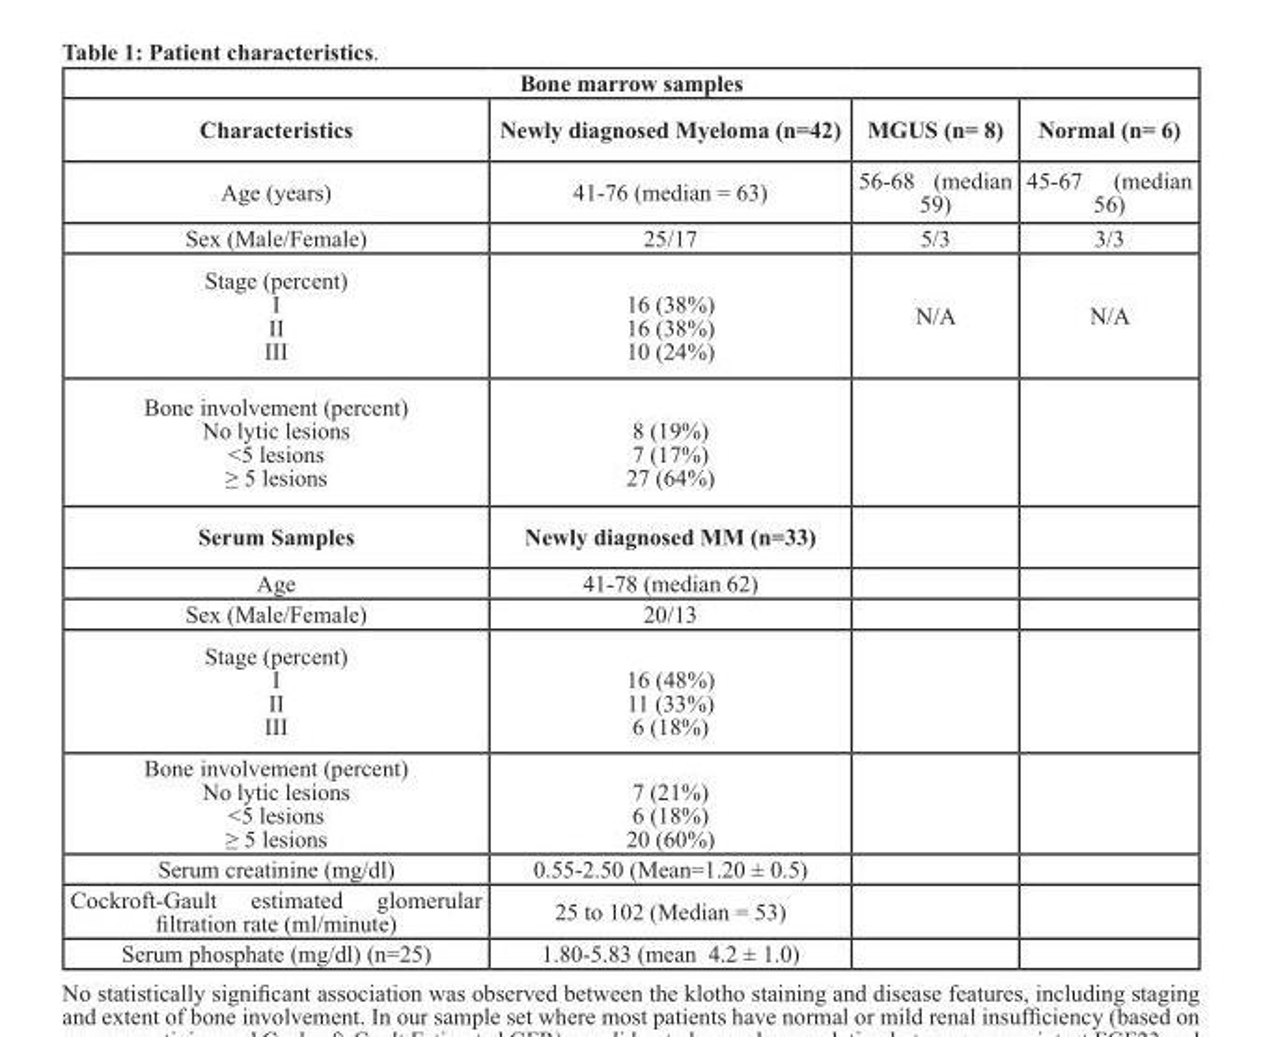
<table><thead><tr><td colspan="4">Bone marrow samples</td></tr><tr><td>Characteristics</td><td>Newly diagnosed Myeloma (n=42)</td><td>MGUS (n= 8)</td><td>Normal (n= 6)</td></tr></thead><tbody><tr><td>Age (years)</td><td>41-76 (median = 63)</td><td>56-68 (median 59)</td><td>45-67 (median 56)</td></tr><tr><td>Sex (Male/Female)</td><td>25/17</td><td>5/3</td><td>3/3</td></tr><tr><td>Stage (percent) I II III</td><td>16 (38%) 16 (38%) 10 (24%)</td><td>N/A</td><td>N/A</td></tr><tr><td>Bone involvement (percent) No lytic lesions &lt;5 lesions ≥ 5 lesions</td><td>8 (19%) 7 (17%) 27 (64%)</td><td></td><td></td></tr><tr><td>Serum Samples</td><td>Newly diagnosed MM (n=33)</td><td></td><td></td></tr><tr><td>Age</td><td>41-78 (median 62)</td><td></td><td></td></tr><tr><td>Sex (Male/Female)</td><td>20/13</td><td></td><td></td></tr><tr><td>Stage (percent) I II III</td><td>16 (48%) 11 (33%) 6 (18%)</td><td></td><td></td></tr><tr><td>Bone involvement (percent) No lytic lesions &lt;5 lesions ≥ 5 lesions</td><td>7 (21%) 6 (18%) 20 (60%)</td><td></td><td></td></tr><tr><td>Serum creatinine (mg/dl)</td><td>0.55-2.50 (Mean=1.20 ± 0.5)</td><td></td><td></td></tr><tr><td>Cockroft-Gault estimated glomerular filtration rate (ml/minute)</td><td>25 to 102 (Median = 53)</td><td></td><td></td></tr><tr><td>Serum phosphate (mg/dl) (n=25)</td><td>1.80-5.83 (mean 4.2 ± 1.0)</td><td></td><td></td></tr></tbody></table>